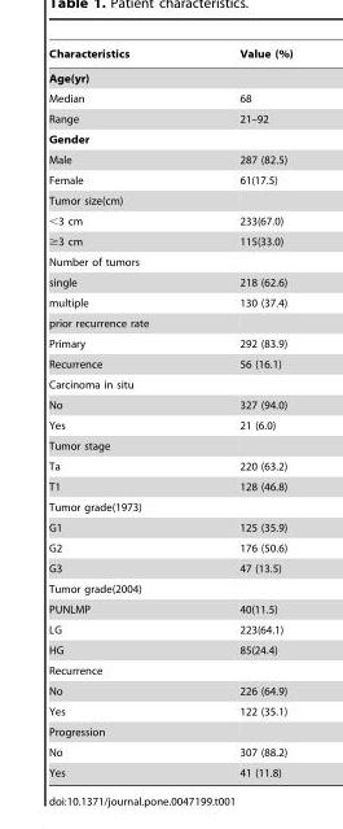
<table><thead><tr><td>Characteristics</td><td>Value (%)</td></tr></thead><tbody><tr><td colspan="2">Age(yr)</td></tr><tr><td>Median</td><td>68</td></tr><tr><td>Range</td><td>21–92</td></tr><tr><td colspan="2">Gender</td></tr><tr><td>Male</td><td>287 (82.5)</td></tr><tr><td>Female</td><td>61(17.5)</td></tr><tr><td colspan="2">Tumor size(cm)</td></tr><tr><td>&lt;3 cm</td><td>233(67.0)</td></tr><tr><td>≥3 cm</td><td>115(33.0)</td></tr><tr><td colspan="2">Number of tumors</td></tr><tr><td>single</td><td>218 (62.6)</td></tr><tr><td>multiple</td><td>130 (37.4)</td></tr><tr><td colspan="2">prior recurrence rate</td></tr><tr><td>Primary</td><td>292 (83.9)</td></tr><tr><td>Recurrence</td><td>56 (16.1)</td></tr><tr><td colspan="2">Carcinoma in situ</td></tr><tr><td>No</td><td>327 (94.0)</td></tr><tr><td>Yes</td><td>21 (6.0)</td></tr><tr><td colspan="2">Tumor stage</td></tr><tr><td>Ta</td><td>220 (63.2)</td></tr><tr><td>T1</td><td>128 (46.8)</td></tr><tr><td colspan="2">Tumor grade(1973)</td></tr><tr><td>G1</td><td>125 (35.9)</td></tr><tr><td>G2</td><td>176 (50.6)</td></tr><tr><td>G3</td><td>47 (13.5)</td></tr><tr><td colspan="2">Tumor grade(2004)</td></tr><tr><td>PUNLMP</td><td>40(11.5)</td></tr><tr><td>LG</td><td>223(64.1)</td></tr><tr><td>HG</td><td>85(24.4)</td></tr><tr><td colspan="2">Recurrence</td></tr><tr><td>No</td><td>226 (64.9)</td></tr><tr><td>Yes</td><td>122 (35.1)</td></tr><tr><td colspan="2">Progression</td></tr><tr><td>No</td><td>307 (88.2)</td></tr><tr><td>Yes</td><td>41 (11.8)</td></tr></tbody></table>